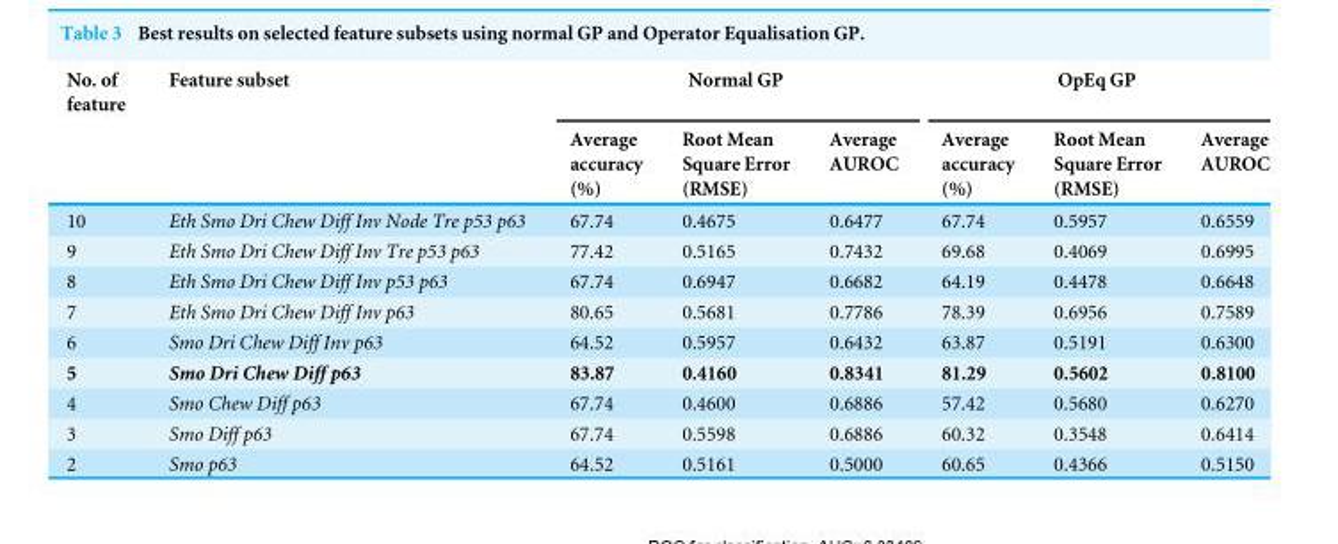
<table><thead><tr><td rowspan="2">No. of feature</td><td rowspan="2">Feature subset</td><td colspan="3">Normal GP</td><td colspan="3">OpEq GP</td></tr><tr><td>Average accuracy (%)</td><td>Root Mean Square Error (RMSE)</td><td>Average AUROC</td><td>Average accuracy (%)</td><td>Root Mean Square Error (RMSE)</td><td>Average AUROC</td></tr></thead><tbody><tr><td>10</td><td>Eth Smo Dri Chew Diff Inv Node Tre p53 p63</td><td>67.74</td><td>0.4675</td><td>0.6477</td><td>67.74</td><td>0.5957</td><td>0.6559</td></tr><tr><td>9</td><td>Eth Smo Dri Chew Diff Inv Tre p53 p63</td><td>77.42</td><td>0.5165</td><td>0.7432</td><td>69.68</td><td>0.4069</td><td>0.6995</td></tr><tr><td>8</td><td>Eth Smo Dri Chew Diff Inv p53 p63</td><td>67.74</td><td>0.6947</td><td>0.6682</td><td>64.19</td><td>0.4478</td><td>0.6648</td></tr><tr><td>7</td><td>Eth Smo Dri Chew Diff Inv p63</td><td>80.65</td><td>0.5681</td><td>0.7786</td><td>78.39</td><td>0.6956</td><td>0.7589</td></tr><tr><td>6</td><td>Smo Dri Chew Diff Inv p63</td><td>64.52</td><td>0.5957</td><td>0.6432</td><td>63.87</td><td>0.5191</td><td>0.6300</td></tr><tr><td>5</td><td>Smo Dri Chew Diff p63</td><td>83.87</td><td>0.4160</td><td>0.8341</td><td>81.29</td><td>0.5602</td><td>0.8100</td></tr><tr><td>4</td><td>Smo Chew Diff p63</td><td>67.74</td><td>0.4600</td><td>0.6886</td><td>57.42</td><td>0.5680</td><td>0.6270</td></tr><tr><td>3</td><td>Smo Diff p63</td><td>67.74</td><td>0.5598</td><td>0.6886</td><td>60.32</td><td>0.3548</td><td>0.6414</td></tr><tr><td>2</td><td>Smo p63</td><td>64.52</td><td>0.5161</td><td>0.5000</td><td>60.65</td><td>0.4366</td><td>0.5150</td></tr></tbody></table>